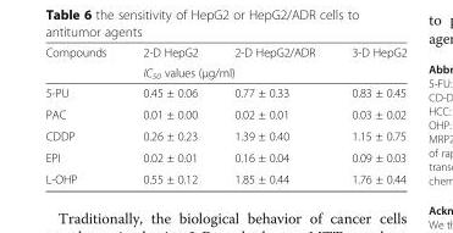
<table><thead><tr><td rowspan="2">Compounds</td><td>2-D HepG2</td><td>2-D HepG2/ADR</td><td>3-D HepG2</td></tr><tr><td colspan="3">IC<sub>50</sub> values (μg/ml)</td></tr></thead><tbody><tr><td>5-PU</td><td>0.45 ± 0.06</td><td>0.77 ± 0.33</td><td>0.83 ± 0.45</td></tr><tr><td>PAC</td><td>0.01 ± 0.00</td><td>0.02 ± 0.01</td><td>0.03 ± 0.02</td></tr><tr><td>CDDP</td><td>0.26 ± 0.23</td><td>1.39 ± 0.40</td><td>1.15 ± 0.75</td></tr><tr><td>EPI</td><td>0.02 ± 0.01</td><td>0.16 ± 0.04</td><td>0.09 ± 0.03</td></tr><tr><td>L-OHP</td><td>0.55 ± 0.12</td><td>1.85 ± 0.44</td><td>1.76 ± 0.44</td></tr></tbody></table>